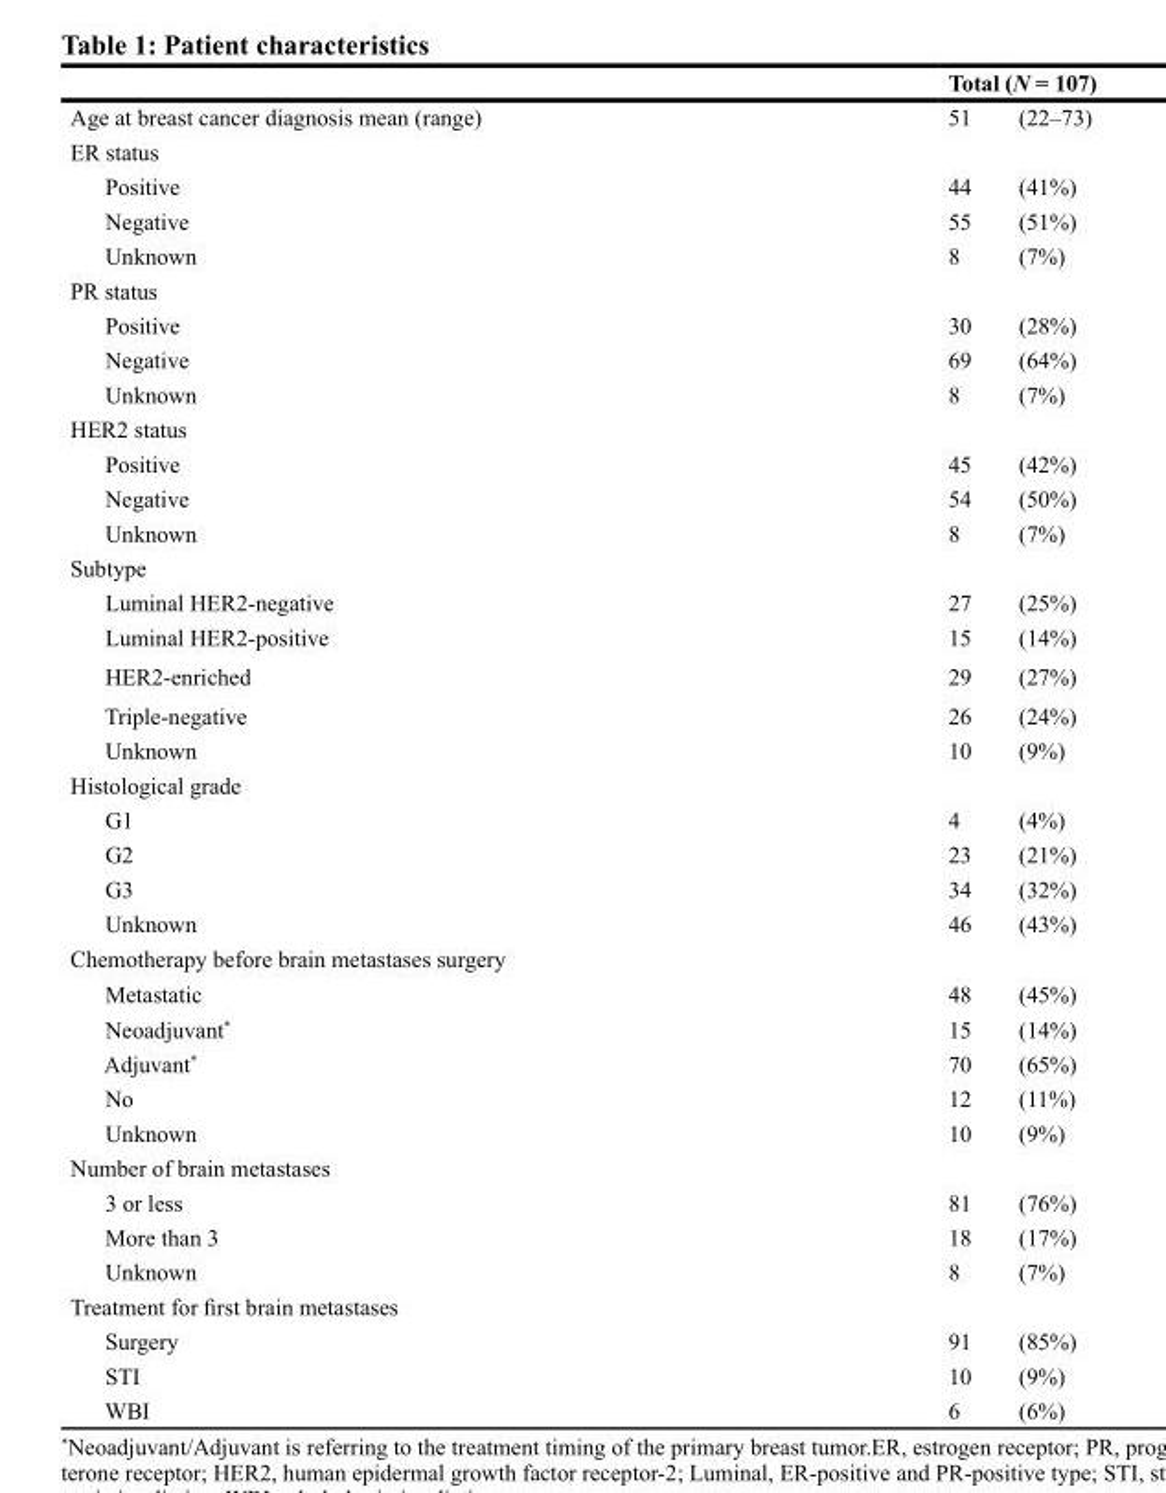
<table><thead><tr><td rowspan="2">Age at breast cancer diagnosis mean (range)</td><td colspan="2">Total (N = 107)</td></tr><tr><td>51</td><td>(22–73)</td></tr></thead><tbody><tr><td colspan="3">ER status</td></tr><tr><td>Positive</td><td>44</td><td>(41%)</td></tr><tr><td>Negative</td><td>55</td><td>(51%)</td></tr><tr><td>Unknown</td><td>8</td><td>(7%)</td></tr><tr><td colspan="3">PR status</td></tr><tr><td>Positive</td><td>30</td><td>(28%)</td></tr><tr><td>Negative</td><td>69</td><td>(64%)</td></tr><tr><td>Unknown</td><td>8</td><td>(7%)</td></tr><tr><td colspan="3">HER2 status</td></tr><tr><td>Positive</td><td>45</td><td>(42%)</td></tr><tr><td>Negative</td><td>54</td><td>(50%)</td></tr><tr><td>Unknown</td><td>8</td><td>(7%)</td></tr><tr><td colspan="3">Subtype</td></tr><tr><td>Luminal HER2-negative</td><td>27</td><td>(25%)</td></tr><tr><td>Luminal HER2-positive</td><td>15</td><td>(14%)</td></tr><tr><td>HER2-enriched</td><td>29</td><td>(27%)</td></tr><tr><td>Triple-negative</td><td>26</td><td>(24%)</td></tr><tr><td>Unknown</td><td>10</td><td>(9%)</td></tr><tr><td colspan="3">Histological grade</td></tr><tr><td>G1</td><td>4</td><td>(4%)</td></tr><tr><td>G2</td><td>23</td><td>(21%)</td></tr><tr><td>G3</td><td>34</td><td>(32%)</td></tr><tr><td>Unknown</td><td>46</td><td>(43%)</td></tr><tr><td colspan="3">Chemotherapy before brain metastases surgery</td></tr><tr><td>Metastatic</td><td>48</td><td>(45%)</td></tr><tr><td>Neoadjuvant*</td><td>15</td><td>(14%)</td></tr><tr><td>Adjuvant*</td><td>70</td><td>(65%)</td></tr><tr><td>No</td><td>12</td><td>(11%)</td></tr><tr><td>Unknown</td><td>10</td><td>(9%)</td></tr><tr><td colspan="3">Number of brain metastases</td></tr><tr><td>3 or less</td><td>81</td><td>(76%)</td></tr><tr><td>More than 3</td><td>18</td><td>(17%)</td></tr><tr><td>Unknown</td><td>8</td><td>(7%)</td></tr><tr><td colspan="3">Treatment for first brain metastases</td></tr><tr><td>Surgery</td><td>91</td><td>(85%)</td></tr><tr><td>STI</td><td>10</td><td>(9%)</td></tr><tr><td>WBI</td><td>6</td><td>(6%)</td></tr></tbody></table>